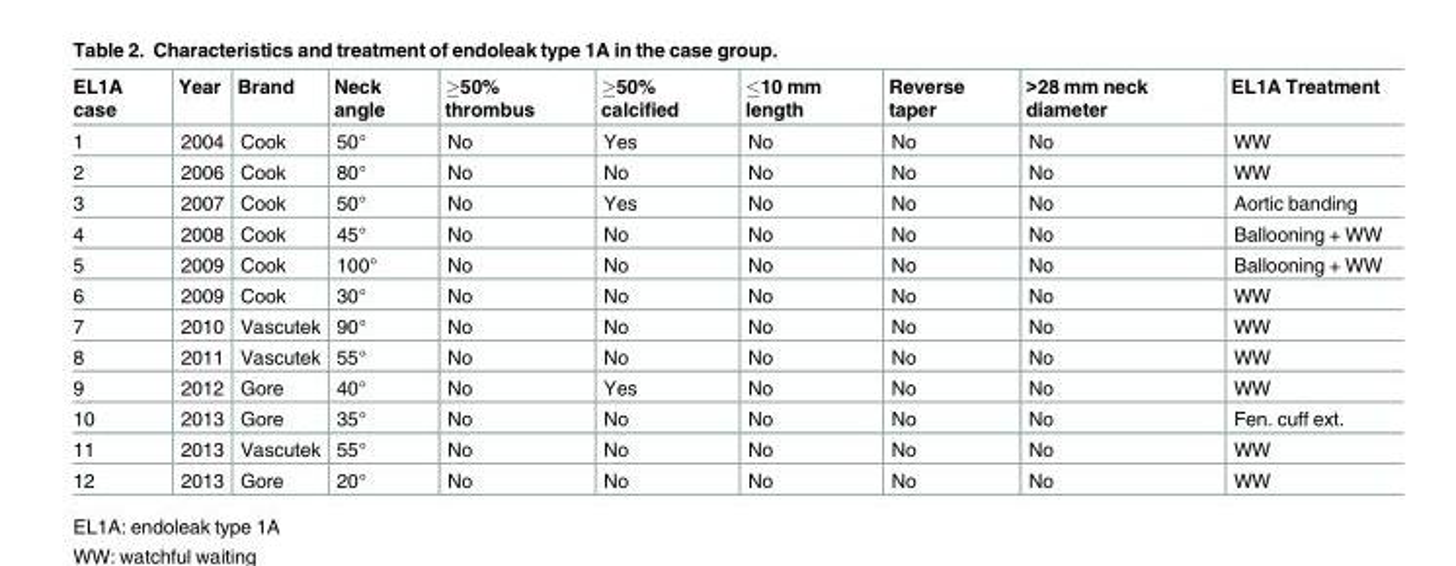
<table><thead><tr><td>EL1A case</td><td>Year</td><td>Brand</td><td>Neck angle</td><td>≥50% thrombus</td><td>≥50% calcified</td><td>≤10 mm length</td><td>Reverse taper</td><td>&gt;28 mm neck diameter</td><td>EL1A Treatment</td></tr></thead><tbody><tr><td>1</td><td>2004</td><td>Cook</td><td>50°</td><td>No</td><td>Yes</td><td>No</td><td>No</td><td>No</td><td>WW</td></tr><tr><td>2</td><td>2006</td><td>Cook</td><td>80°</td><td>No</td><td>No</td><td>No</td><td>No</td><td>No</td><td>WW</td></tr><tr><td>3</td><td>2007</td><td>Cook</td><td>50°</td><td>No</td><td>Yes</td><td>No</td><td>No</td><td>No</td><td>Aortic banding</td></tr><tr><td>4</td><td>2008</td><td>Cook</td><td>45°</td><td>No</td><td>No</td><td>No</td><td>No</td><td>No</td><td>Ballooning + WW</td></tr><tr><td>5</td><td>2009</td><td>Cook</td><td>100°</td><td>No</td><td>No</td><td>No</td><td>No</td><td>No</td><td>Ballooning + WW</td></tr><tr><td>6</td><td>2009</td><td>Cook</td><td>30°</td><td>No</td><td>No</td><td>No</td><td>No</td><td>No</td><td>WW</td></tr><tr><td>7</td><td>2010</td><td>Vascutek</td><td>90°</td><td>No</td><td>No</td><td>No</td><td>No</td><td>No</td><td>WW</td></tr><tr><td>8</td><td>2011</td><td>Vascutek</td><td>55°</td><td>No</td><td>No</td><td>No</td><td>No</td><td>No</td><td>WW</td></tr><tr><td>9</td><td>2012</td><td>Gore</td><td>40°</td><td>No</td><td>Yes</td><td>No</td><td>No</td><td>No</td><td>WW</td></tr><tr><td>10</td><td>2013</td><td>Gore</td><td>35°</td><td>No</td><td>No</td><td>No</td><td>No</td><td>No</td><td>Fen. cuff ext.</td></tr><tr><td>11</td><td>2013</td><td>Vascutek</td><td>55°</td><td>No</td><td>No</td><td>No</td><td>No</td><td>No</td><td>WW</td></tr><tr><td>12</td><td>2013</td><td>Gore</td><td>20°</td><td>No</td><td>No</td><td>No</td><td>No</td><td>No</td><td>WW</td></tr></tbody></table>